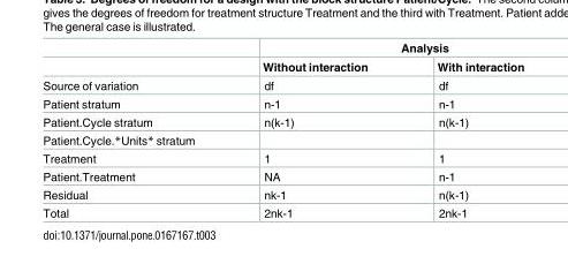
<table><thead><tr><td rowspan="2"></td><td colspan="2">Analysis</td></tr><tr><td>Without interaction</td><td>With interaction</td></tr></thead><tbody><tr><td>Source of variation</td><td>df</td><td>df</td></tr><tr><td>Patient stratum</td><td>n-1</td><td>n-1</td></tr><tr><td>Patient.Cycle stratum</td><td>n(k-1)</td><td>n(k-1)</td></tr><tr><td colspan="3">Patient.Cycle.*Units* stratum</td></tr><tr><td>Treatment</td><td>1</td><td>1</td></tr><tr><td>Patient.Treatment</td><td>NA</td><td>n-1</td></tr><tr><td>Residual</td><td>nk-1</td><td>n(k-1)</td></tr><tr><td>Total</td><td>2nk-1</td><td>2nk-1</td></tr></tbody></table>